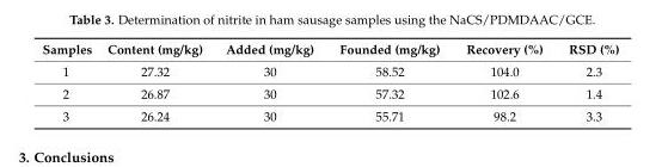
<table><thead><tr><td>Samples</td><td>Content (mg/kg)</td><td>Added (mg/kg)</td><td>Founded (mg/kg)</td><td>Recovery (%)</td><td>RSD (%)</td></tr></thead><tbody><tr><td>1</td><td>27.32</td><td>30</td><td>58.52</td><td>104.0</td><td>2.3</td></tr><tr><td>2</td><td>26.87</td><td>30</td><td>57.32</td><td>102.6</td><td>1.4</td></tr><tr><td>3</td><td>26.24</td><td>30</td><td>55.71</td><td>98.2</td><td>3.3</td></tr></tbody></table>